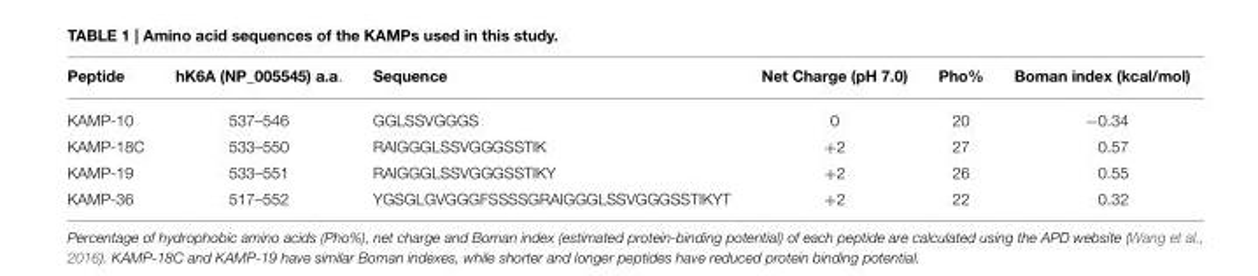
<table><thead><tr><td>Peptide</td><td>hK6A (NP_005545) a.a.</td><td>Sequence</td><td>Net Charge (pH 7.0)</td><td>Pho%</td><td>Boman index (kcal/mol)</td></tr></thead><tbody><tr><td>KAMP-10</td><td>537–546</td><td>GGLSSVGGGS</td><td>0</td><td>20</td><td>−0.34</td></tr><tr><td>KAMP-18C</td><td>533–550</td><td>RAIGGGLSSVGGGSSTIK</td><td>+2</td><td>27</td><td>0.57</td></tr><tr><td>KAMP-19</td><td>533–551</td><td>RAIGGGLSSVGGGSSTIKY</td><td>+2</td><td>26</td><td>0.55</td></tr><tr><td>KAMP-36</td><td>517–552</td><td>YGSGLGVGGGFSSSSGRAIGGGLSSVGGGSSTIKYT</td><td>+2</td><td>22</td><td>0.32</td></tr></tbody></table>